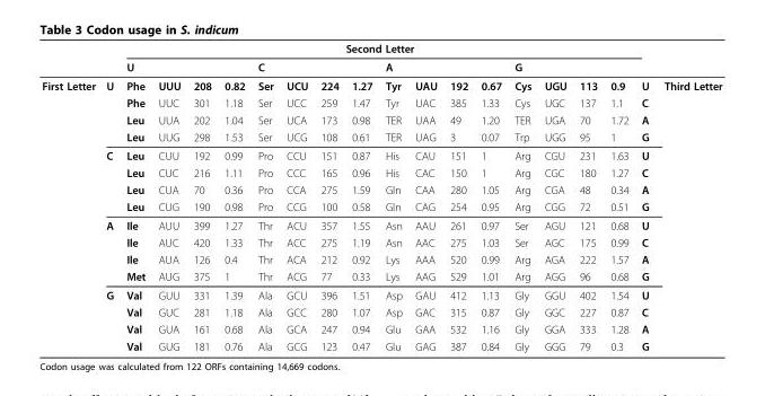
<table><thead><tr><td rowspan="3">First Letter</td><td rowspan="3">U</td><td colspan="16">Second Letter</td><td rowspan="3">U</td><td rowspan="3">Third Letter</td></tr><tr><td colspan="4">U</td><td colspan="4">C</td><td colspan="4">A</td><td colspan="4">G</td></tr><tr><td>Phe</td><td>UUU</td><td>208</td><td>0.82</td><td>Ser</td><td>UCU</td><td>224</td><td>1.27</td><td>Tyr</td><td>UAU</td><td>192</td><td>0.67</td><td>Cys</td><td>UGU</td><td>113</td><td>0.9</td></tr></thead><tbody><tr><td></td><td></td><td>Phe</td><td>UUC</td><td>301</td><td>1.18</td><td>Ser</td><td>UCC</td><td>259</td><td>1.47</td><td>Tyr</td><td>UAC</td><td>385</td><td>1.33</td><td>Cys</td><td>UGC</td><td>137</td><td>1.1</td><td>C</td><td></td></tr><tr><td></td><td></td><td>Leu</td><td>UUA</td><td>202</td><td>1.04</td><td>Ser</td><td>UCA</td><td>173</td><td>0.98</td><td>TER</td><td>UAA</td><td>49</td><td>1.20</td><td>TER</td><td>UGA</td><td>70</td><td>1.72</td><td>A</td><td></td></tr><tr><td></td><td></td><td>Leu</td><td>UUG</td><td>298</td><td>1.53</td><td>Ser</td><td>UCG</td><td>108</td><td>0.61</td><td>TER</td><td>UAG</td><td>3</td><td>0.07</td><td>Trp</td><td>UGG</td><td>95</td><td>1</td><td>G</td><td></td></tr><tr><td></td><td>C</td><td>Leu</td><td>CUU</td><td>192</td><td>0.99</td><td>Pro</td><td>CCU</td><td>151</td><td>0.87</td><td>His</td><td>CAU</td><td>151</td><td>1</td><td>Arg</td><td>CGU</td><td>231</td><td>1.63</td><td>U</td><td></td></tr><tr><td></td><td></td><td>Leu</td><td>CUC</td><td>216</td><td>1.11</td><td>Pro</td><td>CCC</td><td>165</td><td>0.96</td><td>His</td><td>CAC</td><td>150</td><td>1</td><td>Arg</td><td>CGC</td><td>180</td><td>1.27</td><td>C</td><td></td></tr><tr><td></td><td></td><td>Leu</td><td>CUA</td><td>70</td><td>0.36</td><td>Pro</td><td>CCA</td><td>275</td><td>1.59</td><td>Gln</td><td>CAA</td><td>280</td><td>1.05</td><td>Arg</td><td>CGA</td><td>48</td><td>0.34</td><td>A</td><td></td></tr><tr><td></td><td></td><td>Leu</td><td>CUG</td><td>190</td><td>0.98</td><td>Pro</td><td>CCG</td><td>100</td><td>0.58</td><td>Gln</td><td>CAG</td><td>254</td><td>0.95</td><td>Arg</td><td>CGG</td><td>72</td><td>0.51</td><td>G</td><td></td></tr><tr><td></td><td>A</td><td>Ile</td><td>AUU</td><td>399</td><td>1.27</td><td>Thr</td><td>ACU</td><td>357</td><td>1.55</td><td>Asn</td><td>AAU</td><td>261</td><td>0.97</td><td>Ser</td><td>AGU</td><td>121</td><td>0.68</td><td>U</td><td></td></tr><tr><td></td><td></td><td>Ile</td><td>AUC</td><td>420</td><td>1.33</td><td>Thr</td><td>ACC</td><td>275</td><td>1.19</td><td>Asn</td><td>AAC</td><td>275</td><td>1.03</td><td>Ser</td><td>AGC</td><td>175</td><td>0.99</td><td>C</td><td></td></tr><tr><td></td><td></td><td>Ile</td><td>AUA</td><td>126</td><td>0.4</td><td>Thr</td><td>ACA</td><td>212</td><td>0.92</td><td>Lys</td><td>AAA</td><td>520</td><td>0.99</td><td>Arg</td><td>AGA</td><td>222</td><td>1.57</td><td>A</td><td></td></tr><tr><td></td><td></td><td>Met</td><td>AUG</td><td>375</td><td>1</td><td>Thr</td><td>ACG</td><td>77</td><td>0.33</td><td>Lys</td><td>AAG</td><td>529</td><td>1.01</td><td>Arg</td><td>AGG</td><td>96</td><td>0.68</td><td>G</td><td></td></tr><tr><td></td><td>G</td><td>Val</td><td>GUU</td><td>331</td><td>1.39</td><td>Ala</td><td>GCU</td><td>396</td><td>1.51</td><td>Asp</td><td>GAU</td><td>412</td><td>1.13</td><td>Gly</td><td>GGU</td><td>402</td><td>1.54</td><td>U</td><td></td></tr><tr><td></td><td></td><td>Val</td><td>GUC</td><td>281</td><td>1.18</td><td>Ala</td><td>GCC</td><td>280</td><td>1.07</td><td>Asp</td><td>GAC</td><td>315</td><td>0.87</td><td>Gly</td><td>GGC</td><td>227</td><td>0.87</td><td>C</td><td></td></tr><tr><td></td><td></td><td>Val</td><td>GUA</td><td>161</td><td>0.68</td><td>Ala</td><td>GCA</td><td>247</td><td>0.94</td><td>Glu</td><td>GAA</td><td>532</td><td>1.16</td><td>Gly</td><td>GGA</td><td>333</td><td>1.28</td><td>A</td><td></td></tr><tr><td></td><td></td><td>Val</td><td>GUG</td><td>181</td><td>0.76</td><td>Ala</td><td>GCG</td><td>123</td><td>0.47</td><td>Glu</td><td>GAG</td><td>387</td><td>0.84</td><td>Gly</td><td>GGG</td><td>79</td><td>0.3</td><td>G</td><td></td></tr></tbody></table>